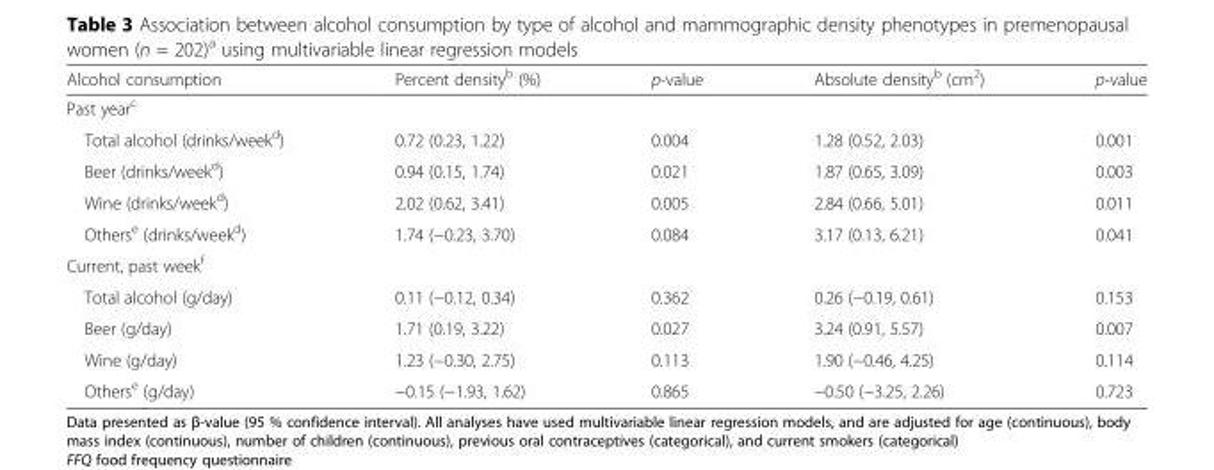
<table><thead><tr><td>Alcohol consumption</td><td>Percent density<sup>b</sup> (%)</td><td>p-value</td><td>Absolute density<sup>b</sup> (cm<sup>2</sup>)</td><td>p-value</td></tr></thead><tbody><tr><td colspan="5">Past year<sup>c</sup></td></tr><tr><td>Total alcohol (drinks/week<sup>d</sup>)</td><td>0.72 (0.23, 1.22)</td><td>0.004</td><td>1.28 (0.52, 2.03)</td><td>0.001</td></tr><tr><td>Beer (drinks/week<sup>d</sup>)</td><td>0.94 (0.15, 1.74)</td><td>0.021</td><td>1.87 (0.65, 3.09)</td><td>0.003</td></tr><tr><td>Wine (drinks/week<sup>d</sup>)</td><td>2.02 (0.62, 3.41)</td><td>0.005</td><td>2.84 (0.66, 5.01)</td><td>0.011</td></tr><tr><td>Others<sup>e</sup> (drinks/week<sup>d</sup>)</td><td>1.74 (−0.23, 3.70)</td><td>0.084</td><td>3.17 (0.13, 6.21)</td><td>0.041</td></tr><tr><td colspan="5">Current, past week<sup>f</sup></td></tr><tr><td>Total alcohol (g/day)</td><td>0.11 (−0.12, 0.34)</td><td>0.362</td><td>0.26 (−0.19, 0.61)</td><td>0.153</td></tr><tr><td>Beer (g/day)</td><td>1.71 (0.19, 3.22)</td><td>0.027</td><td>3.24 (0.91, 5.57)</td><td>0.007</td></tr><tr><td>Wine (g/day)</td><td>1.23 (−0.30, 2.75)</td><td>0.113</td><td>1.90 (−0.46, 4.25)</td><td>0.114</td></tr><tr><td>Others<sup>e</sup> (g/day)</td><td>−0.15 (−1.93, 1.62)</td><td>0.865</td><td>−0.50 (−3.25, 2.26)</td><td>0.723</td></tr></tbody></table>